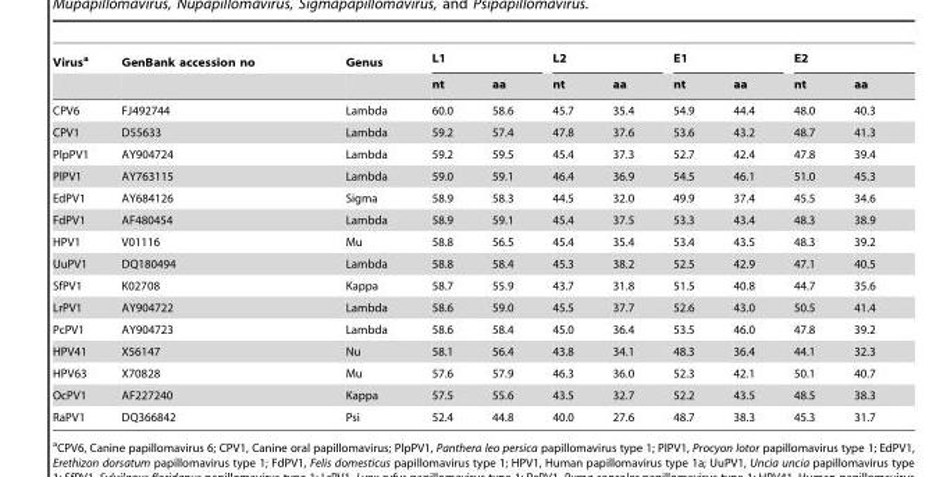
<table><thead><tr><td rowspan="2">Virus<sup>a</sup></td><td rowspan="2">GenBank accession no</td><td rowspan="2">Genus</td><td colspan="2">L1</td><td colspan="2">L2</td><td colspan="2">E1</td><td colspan="2">E2</td></tr><tr><td>nt</td><td>aa</td><td>nt</td><td>aa</td><td>nt</td><td>aa</td><td>nt</td><td>aa</td></tr></thead><tbody><tr><td>CPV6</td><td>FJ492744</td><td>Lambda</td><td>60.0</td><td>58.6</td><td>45.7</td><td>35.4</td><td>54.9</td><td>44.4</td><td>48.0</td><td>40.3</td></tr><tr><td>CPV1</td><td>D55633</td><td>Lambda</td><td>59.2</td><td>57.4</td><td>47.8</td><td>37.6</td><td>53.6</td><td>43.2</td><td>48.7</td><td>41.3</td></tr><tr><td>PlpPV1</td><td>AY904724</td><td>Lambda</td><td>59.2</td><td>59.5</td><td>45.4</td><td>37.3</td><td>52.7</td><td>42.4</td><td>47.8</td><td>39.4</td></tr><tr><td>PlPV1</td><td>AY763115</td><td>Lambda</td><td>59.0</td><td>59.1</td><td>46.4</td><td>36.9</td><td>54.5</td><td>46.1</td><td>51.0</td><td>45.3</td></tr><tr><td>EdPV1</td><td>AY684126</td><td>Sigma</td><td>58.9</td><td>58.3</td><td>44.5</td><td>32.0</td><td>49.9</td><td>37.4</td><td>45.5</td><td>34.6</td></tr><tr><td>FdPV1</td><td>AF480454</td><td>Lambda</td><td>58.9</td><td>59.1</td><td>45.4</td><td>37.5</td><td>53.3</td><td>43.4</td><td>48.3</td><td>38.9</td></tr><tr><td>HPV1</td><td>V01116</td><td>Mu</td><td>58.8</td><td>56.5</td><td>45.4</td><td>35.4</td><td>53.4</td><td>43.5</td><td>48.3</td><td>39.2</td></tr><tr><td>UuPV1</td><td>DQ180494</td><td>Lambda</td><td>58.8</td><td>58.4</td><td>45.3</td><td>38.2</td><td>52.5</td><td>42.9</td><td>47.1</td><td>40.5</td></tr><tr><td>SfPV1</td><td>K02708</td><td>Kappa</td><td>58.7</td><td>55.9</td><td>43.7</td><td>31.8</td><td>51.5</td><td>40.8</td><td>44.7</td><td>35.6</td></tr><tr><td>LrPV1</td><td>AY904722</td><td>Lambda</td><td>58.6</td><td>59.0</td><td>45.5</td><td>37.7</td><td>52.6</td><td>43.0</td><td>50.5</td><td>41.4</td></tr><tr><td>PcPV1</td><td>AY904723</td><td>Lambda</td><td>58.6</td><td>58.4</td><td>45.0</td><td>36.4</td><td>53.5</td><td>46.0</td><td>47.8</td><td>39.2</td></tr><tr><td>HPV41</td><td>X56147</td><td>Nu</td><td>58.1</td><td>56.4</td><td>43.8</td><td>34.1</td><td>48.3</td><td>36.4</td><td>44.1</td><td>32.3</td></tr><tr><td>HPV63</td><td>X70828</td><td>Mu</td><td>57.6</td><td>57.9</td><td>46.3</td><td>36.0</td><td>52.3</td><td>42.1</td><td>50.1</td><td>40.7</td></tr><tr><td>OcPV1</td><td>AF227240</td><td>Kappa</td><td>57.5</td><td>55.6</td><td>43.5</td><td>32.7</td><td>52.2</td><td>43.5</td><td>48.5</td><td>38.3</td></tr><tr><td>RaPV1</td><td>DQ366842</td><td>Psi</td><td>52.4</td><td>44.8</td><td>40.0</td><td>27.6</td><td>48.7</td><td>38.3</td><td>45.3</td><td>31.7</td></tr></tbody></table>